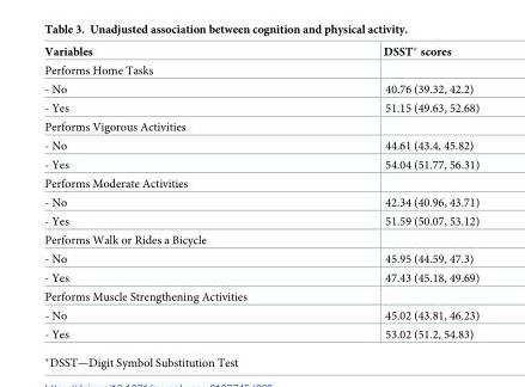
<table><thead><tr><td>Variables</td><td>DSST* scores</td></tr></thead><tbody><tr><td colspan="2">Performs Home Tasks</td></tr><tr><td>- No</td><td>40.76 (39.32, 42.2)</td></tr><tr><td>- Yes</td><td>51.15 (49.63, 52.68)</td></tr><tr><td colspan="2">Performs Vigorous Activities</td></tr><tr><td>- No</td><td>44.61 (43.4, 45.82)</td></tr><tr><td>- Yes</td><td>54.04 (51.77, 56.31)</td></tr><tr><td colspan="2">Performs Moderate Activities</td></tr><tr><td>- No</td><td>42.34 (40.96, 43.71)</td></tr><tr><td>- Yes</td><td>51.59 (50.07, 53.12)</td></tr><tr><td colspan="2">Performs Walk or Rides a Bicycle</td></tr><tr><td>- No</td><td>45.95 (44.59, 47.3)</td></tr><tr><td>- Yes</td><td>47.43 (45.18, 49.69)</td></tr><tr><td colspan="2">Performs Muscle Strengthening Activities</td></tr><tr><td>- No</td><td>45.02 (43.81, 46.23)</td></tr><tr><td>- Yes</td><td>53.02 (51.2, 54.83)</td></tr></tbody></table>